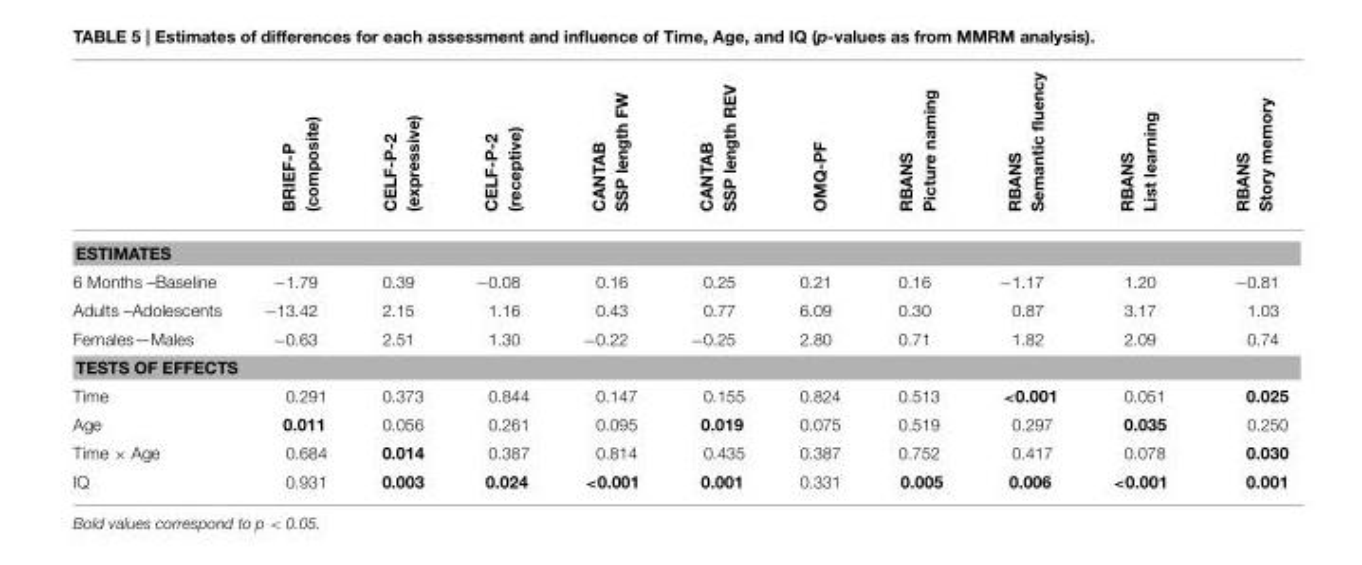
<table><thead><tr><td></td><td>BRIEF-P (composite)</td><td>CELF-P-2 (expressive)</td><td>CELF-P-2 (receptive)</td><td>CANTAB SSP length FW</td><td>CANTAB SSP length REV</td><td>OMQ-PF</td><td>RBANS Picture naming</td><td>RBANS Semantic fluency</td><td>RBANS List learning</td><td>RBANS Story memory</td></tr></thead><tbody><tr><td colspan="11">ESTIMATES</td></tr><tr><td>6 Months –Baseline</td><td>−1.79</td><td>0.39</td><td>−0.08</td><td>0.16</td><td>0.25</td><td>0.21</td><td>0.16</td><td>−1.17</td><td>1.20</td><td>−0.81</td></tr><tr><td>Adults –Adolescents</td><td>−13.42</td><td>2.15</td><td>1.16</td><td>0.43</td><td>0.77</td><td>6.09</td><td>0.30</td><td>0.87</td><td>3.17</td><td>1.03</td></tr><tr><td>Females—Males</td><td>−0.63</td><td>2.51</td><td>1.30</td><td>−0.22</td><td>−0.25</td><td>2.80</td><td>0.71</td><td>1.82</td><td>2.09</td><td>0.74</td></tr><tr><td colspan="11">TESTS OF EFFECTS</td></tr><tr><td>Time</td><td>0.291</td><td>0.373</td><td>0.844</td><td>0.147</td><td>0.155</td><td>0.824</td><td>0.513</td><td>&lt;0.001</td><td>0.051</td><td>0.025</td></tr><tr><td>Age</td><td>0.011</td><td>0.056</td><td>0.261</td><td>0.095</td><td>0.019</td><td>0.075</td><td>0.519</td><td>0.297</td><td>0.035</td><td>0.250</td></tr><tr><td>Time × Age</td><td>0.684</td><td>0.014</td><td>0.387</td><td>0.814</td><td>0.435</td><td>0.387</td><td>0.752</td><td>0.417</td><td>0.078</td><td>0.030</td></tr><tr><td>IQ</td><td>0.931</td><td>0.003</td><td>0.024</td><td>&lt;0.001</td><td>0.001</td><td>0.331</td><td>0.005</td><td>0.006</td><td>&lt;0.001</td><td>0.001</td></tr></tbody></table>